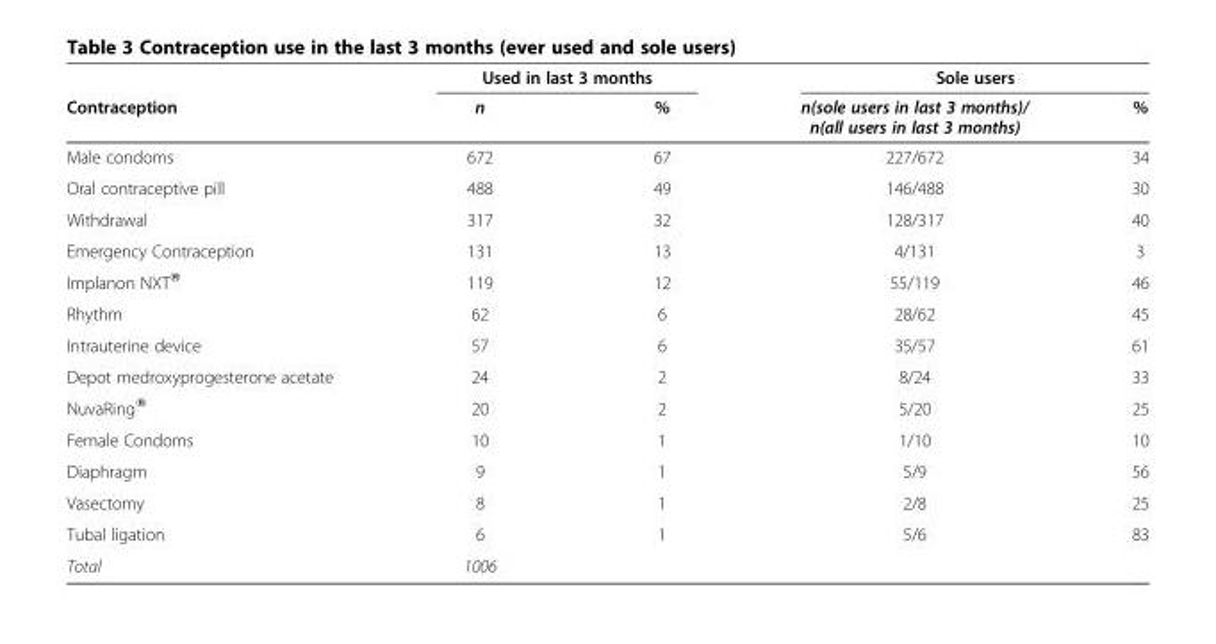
<table><thead><tr><td rowspan="2">Contraception</td><td colspan="2">Used in last 3 months</td><td colspan="2">Sole users</td></tr><tr><td>n</td><td>%</td><td>n(sole users in last 3 months)/ n(all users in last 3 months)</td><td>%</td></tr></thead><tbody><tr><td>Male condoms</td><td>672</td><td>67</td><td>227/672</td><td>34</td></tr><tr><td>Oral contraceptive pill</td><td>488</td><td>49</td><td>146/488</td><td>30</td></tr><tr><td>Withdrawal</td><td>317</td><td>32</td><td>128/317</td><td>40</td></tr><tr><td>Emergency Contraception</td><td>131</td><td>13</td><td>4/131</td><td>3</td></tr><tr><td>Implanon NXT®</td><td>119</td><td>12</td><td>55/119</td><td>46</td></tr><tr><td>Rhythm</td><td>62</td><td>6</td><td>28/62</td><td>45</td></tr><tr><td>Intrauterine device</td><td>57</td><td>6</td><td>35/57</td><td>61</td></tr><tr><td>Depot medroxyprogesterone acetate</td><td>24</td><td>2</td><td>8/24</td><td>33</td></tr><tr><td>NuvaRing®</td><td>20</td><td>2</td><td>5/20</td><td>25</td></tr><tr><td>Female Condoms</td><td>10</td><td>1</td><td>1/10</td><td>10</td></tr><tr><td>Diaphragm</td><td>9</td><td>1</td><td>5/9</td><td>56</td></tr><tr><td>Vasectomy</td><td>8</td><td>1</td><td>2/8</td><td>25</td></tr><tr><td>Tubal ligation</td><td>6</td><td>1</td><td>5/6</td><td>83</td></tr><tr><td>Total</td><td>1006</td><td></td><td></td><td></td></tr></tbody></table>